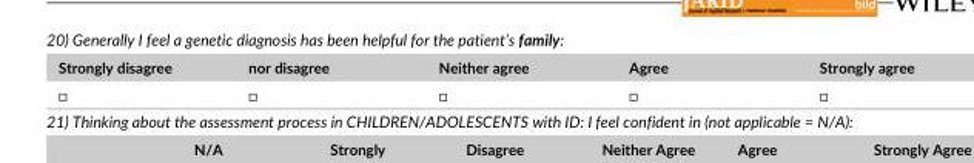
<table><thead><tr><td>Strongly disagree</td><td>nor disagree</td><td>Neither agree</td><td>Agree</td><td>Strongly agree</td></tr></thead><tbody><tr><td>□</td><td>□</td><td>□</td><td>□</td><td>□</td></tr></tbody></table>